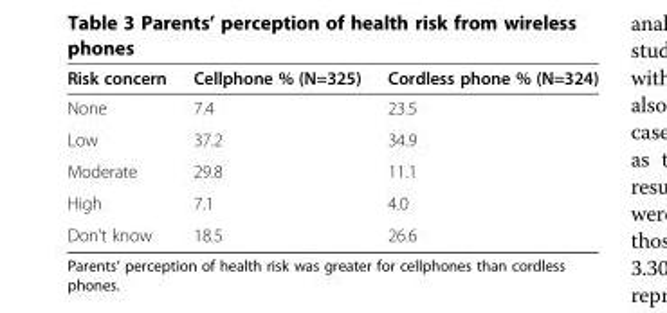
<table><thead><tr><td>Risk concern</td><td>Cellphone % (N=325)</td><td>Cordless phone % (N=324)</td></tr></thead><tbody><tr><td>None</td><td>7.4</td><td>23.5</td></tr><tr><td>Low</td><td>37.2</td><td>34.9</td></tr><tr><td>Moderate</td><td>29.8</td><td>11.1</td></tr><tr><td>High</td><td>7.1</td><td>4.0</td></tr><tr><td>Don’t know</td><td>18.5</td><td>26.6</td></tr></tbody></table>